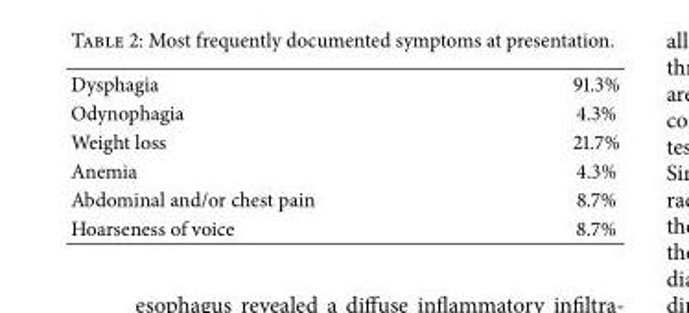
<table><tbody><tr><td>Dysphagia</td><td>91.3%</td></tr><tr><td>Odynophagia</td><td>4.3%</td></tr><tr><td>Weight loss</td><td>21.7%</td></tr><tr><td>Anemia</td><td>4.3%</td></tr><tr><td>Abdominal and/or chest pain</td><td>8.7%</td></tr><tr><td>Hoarseness of voice</td><td>8.7%</td></tr></tbody></table>